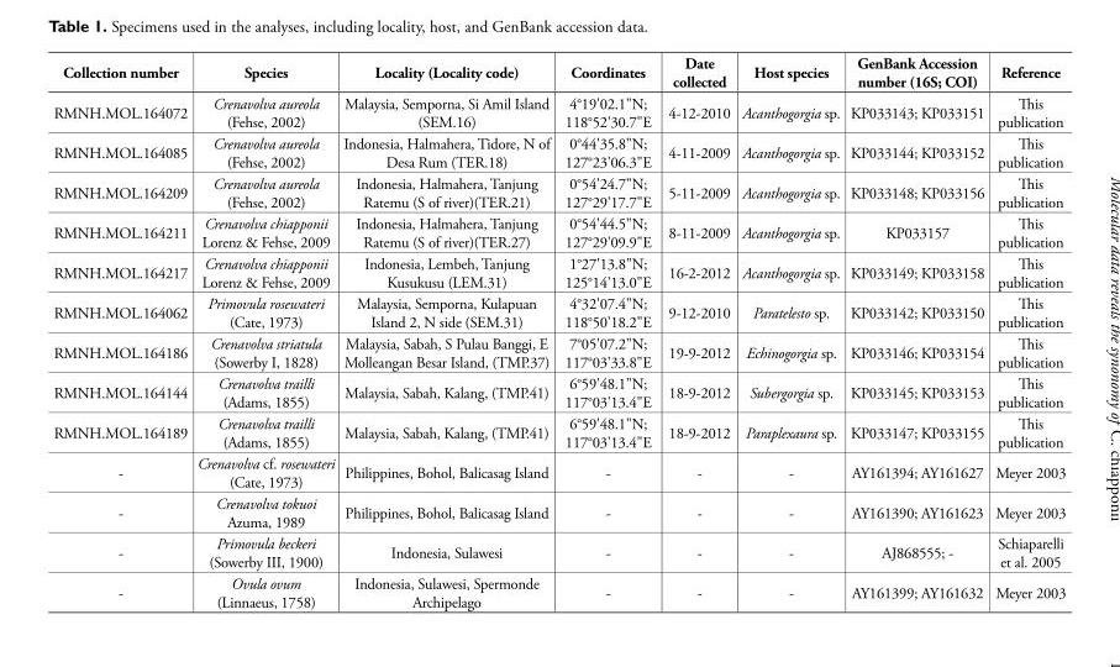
<table><thead><tr><td>Collection number</td><td>Species</td><td>Locality (Locality code)</td><td>Coordinates</td><td>Date collected</td><td>Host species</td><td>GenBank Accession number (16S; COI)</td><td>Reference</td></tr></thead><tbody><tr><td>RMNH.MOL.164072</td><td>Crenavolva aureola (Fehse, 2002)</td><td>Malaysia, Semporna, Si Amil Island (SEM.16)</td><td>4°19&#x27;02.1&quot;N; 118°52&#x27;30.7&quot;E</td><td>4122010</td><td>Acanthogorgia sp.</td><td>KP033143; KP033151</td><td>This publication</td></tr><tr><td>RMNH.MOL.164085</td><td>Crenavolva aureola (Fehse, 2002)</td><td>Indonesia, Halmahera, Tidore, N of Desa Rum (TER.18)</td><td>0°44&#x27;35.8&quot;N; 127°23&#x27;06.3&quot;E</td><td>4112009</td><td>Acanthogorgia sp.</td><td>KP033144; KP033152</td><td>This publication</td></tr><tr><td>RMNH.MOL.164209</td><td>Crenavolva aureola (Fehse, 2002)</td><td>Indonesia, Halmahera, Tanjung Ratemu (S of river)(TER.21)</td><td>0°54&#x27;24.7&quot;N; 127°29&#x27;17.7&quot;E</td><td>5112009</td><td>Acanthogorgia sp.</td><td>KP033148; KP033156</td><td>This publication</td></tr><tr><td>RMNH.MOL.164211</td><td>Crenavolva chiapponii Lorenz &amp; Fehse, 2009</td><td>Indonesia, Halmahera, Tanjung Ratemu (S of river)(TER.27)</td><td>0°54&#x27;44.5&quot;N; 127°29&#x27;09.9&quot;E</td><td>8112009</td><td>Acanthogorgia sp.</td><td>KP033157</td><td>This publication</td></tr><tr><td>RMNH.MOL.164217</td><td>Crenavolva chiapponii Lorenz &amp; Fehse, 2009</td><td>Indonesia, Lembeh, Tanjung Kusukusu (LEM.31)</td><td>1°27&#x27;13.8&quot;N; 125°14&#x27;13.0&quot;E</td><td>1622012</td><td>Acanthogorgia sp.</td><td>KP033149; KP033158</td><td>This publication</td></tr><tr><td>RMNH.MOL.164062</td><td>Primovula rosewateri (Cate, 1973)</td><td>Malaysia, Semporna, Kulapuan Island 2, N side (SEM.31)</td><td>4°32&#x27;07.4&quot;N; 118°50&#x27;18.2&quot;E</td><td>9122010</td><td>Paratelesto sp.</td><td>KP033142; KP033150</td><td>This publication</td></tr><tr><td>RMNH.MOL.164186</td><td>Crenavolva striatula (Sowerby I, 1828)</td><td>Malaysia, Sabah, S Pulau Banggi, E Molleangan Besar Island, (TMP.37)</td><td>7°05&#x27;07.2&quot;N; 117°03&#x27;33.8&quot;E</td><td>1992012</td><td>Echinogorgia sp.</td><td>KP033146; KP033154</td><td>This publication</td></tr><tr><td>RMNH.MOL.164144</td><td>Crenavolva trailli (Adams, 1855)</td><td>Malaysia, Sabah, Kalang, (TMP.41)</td><td>6°59&#x27;48.1&quot;N; 117°03&#x27;13.4&quot;E</td><td>1892012</td><td>Subergorgia sp.</td><td>KP033145; KP033153</td><td>This publication</td></tr><tr><td>RMNH.MOL.164189</td><td>Crenavolva trailli (Adams, 1855)</td><td>Malaysia, Sabah, Kalang, (TMP.41)</td><td>6°59&#x27;48.1&quot;N; 117°03&#x27;13.4&quot;E</td><td>1892012</td><td>Paraplexaura sp.</td><td>KP033147; KP033155</td><td>This publication</td></tr><tr><td></td><td>Crenavolva cf. rosewateri (Cate, 1973)</td><td>Philippines, Bohol, Balicasag Island</td><td></td><td></td><td></td><td>AY161394; AY161627</td><td>Meyer 2003</td></tr><tr><td></td><td>Crenavolva tokuoi Azuma, 1989</td><td>Philippines, Bohol, Balicasag Island</td><td></td><td></td><td></td><td>AY161390; AY161623</td><td>Meyer 2003</td></tr><tr><td></td><td>Primovula beckeri (Sowerby III, 1900)</td><td>Indonesia, Sulawesi</td><td></td><td></td><td></td><td>AJ868555;</td><td>Schiaparelli et al. 2005</td></tr><tr><td></td><td>Ovula ovum (Linnaeus, 1758)</td><td>Indonesia, Sulawesi, Spermonde Archipelago</td><td></td><td></td><td></td><td>AY161399; AY161632</td><td>Meyer 2003</td></tr></tbody></table>